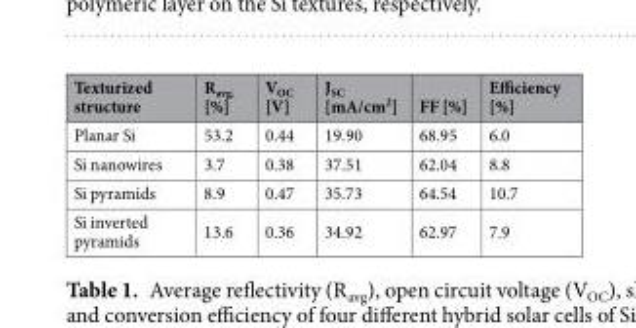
<table><thead><tr><td>Texturized structure</td><td>R<sub>avg.</sub> [%]</td><td>V<sub>OC</sub> [V]</td><td>J<sub>SC</sub> [mA/cm<sup>2</sup>]</td><td>FF [%]</td><td>Efficiency [%]</td></tr></thead><tbody><tr><td>Planar Si</td><td>53.2</td><td>0.44</td><td>19.90</td><td>68.95</td><td>6.0</td></tr><tr><td>Si nanowires</td><td>3.7</td><td>0.38</td><td>37.51</td><td>62.04</td><td>8.8</td></tr><tr><td>Si pyramids</td><td>8.9</td><td>0.47</td><td>35.73</td><td>64.54</td><td>10.7</td></tr><tr><td>Si inverted pyramids</td><td>13.6</td><td>0.36</td><td>34.92</td><td>62.97</td><td>7.9</td></tr></tbody></table>